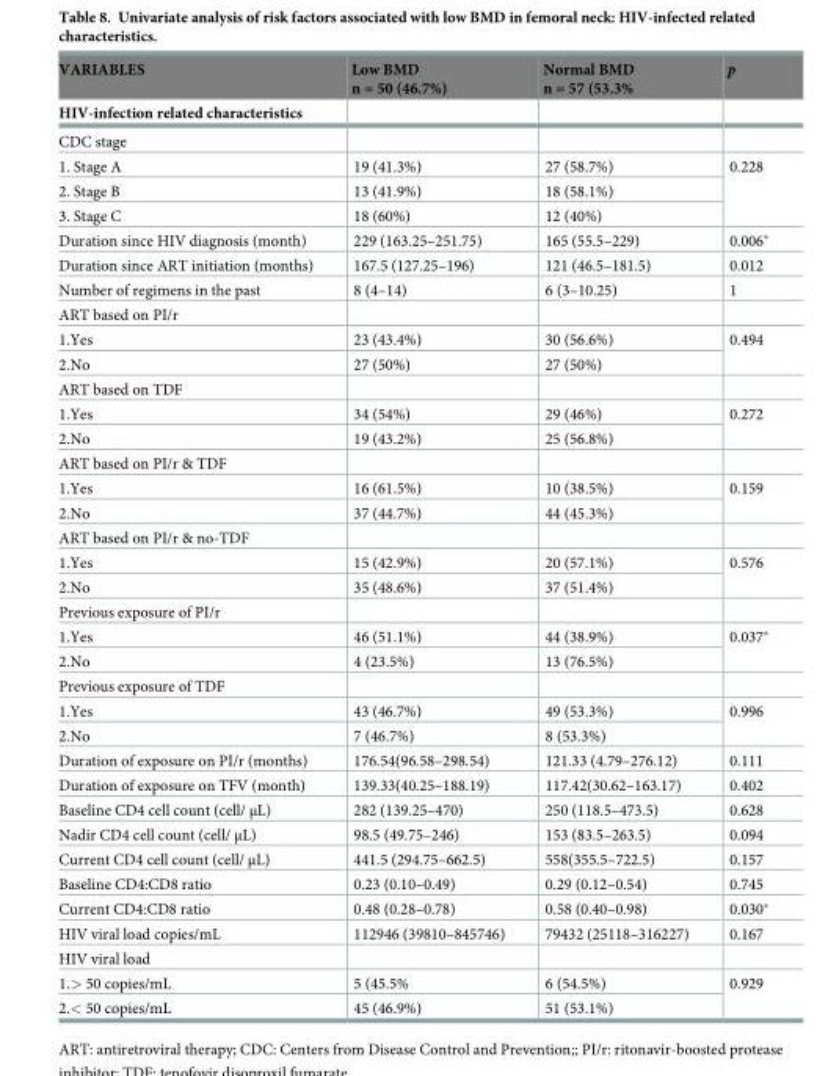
<table><thead><tr><td rowspan="2">VARIABLES HIV-infection related characteristics</td><td rowspan="2">Low BMD n = 50 (46.7%)</td><td rowspan="2">Normal BMD n = 57 (53.3%</td><td rowspan="2">p</td></tr><tr></tr></thead><tbody><tr><td colspan="4">CDC stage</td></tr><tr><td>1. Stage A</td><td>19 (41.3%)</td><td>27 (58.7%)</td><td rowspan="3">0.228</td></tr><tr><td>2. Stage B</td><td>13 (41.9%)</td><td>18 (58.1%)</td></tr><tr><td>3. Stage C</td><td>18 (60%)</td><td>12 (40%)</td></tr><tr><td>Duration since HIV diagnosis (month)</td><td>229 (163.25–251.75)</td><td>165 (55.5–229)</td><td>0.006*</td></tr><tr><td>Duration since ART initiation (months)</td><td>167.5 (127.25–196)</td><td>121 (46.5–181.5)</td><td>0.012</td></tr><tr><td>Number of regimens in the past</td><td>8 (4–14)</td><td>6 (3–10.25)</td><td>1</td></tr><tr><td colspan="4">ART based on PI/r</td></tr><tr><td>1.Yes</td><td>23 (43.4%)</td><td>30 (56.6%)</td><td rowspan="2">0.494</td></tr><tr><td>2.No</td><td>27 (50%)</td><td>27 (50%)</td></tr><tr><td colspan="4">ART based on TDF</td></tr><tr><td>1.Yes</td><td>34 (54%)</td><td>29 (46%)</td><td rowspan="2">0.272</td></tr><tr><td>2.No</td><td>19 (43.2%)</td><td>25 (56.8%)</td></tr><tr><td colspan="4">ART based on PI/r &amp; TDF</td></tr><tr><td>1.Yes</td><td>16 (61.5%)</td><td>10 (38.5%)</td><td rowspan="2">0.159</td></tr><tr><td>2.No</td><td>37 (44.7%)</td><td>44 (45.3%)</td></tr><tr><td colspan="4">ART based on PI/r &amp; no-TDF</td></tr><tr><td>1.Yes</td><td>15 (42.9%)</td><td>20 (57.1%)</td><td rowspan="2">0.576</td></tr><tr><td>2.No</td><td>35 (48.6%)</td><td>37 (51.4%)</td></tr><tr><td colspan="4">Previous exposure of PI/r</td></tr><tr><td>1.Yes</td><td>46 (51.1%)</td><td>44 (38.9%)</td><td rowspan="2">0.037*</td></tr><tr><td>2.No</td><td>4 (23.5%)</td><td>13 (76.5%)</td></tr><tr><td colspan="4">Previous exposure of TDF</td></tr><tr><td>1.Yes</td><td>43 (46.7%)</td><td>49 (53.3%)</td><td rowspan="2">0.996</td></tr><tr><td>2.No</td><td>7 (46.7%)</td><td>8 (53.3%)</td></tr><tr><td>Duration of exposure on PI/r (months)</td><td>176.54(96.58–298.54)</td><td>121.33 (4.79–276.12)</td><td>0.111</td></tr><tr><td>Duration of exposure on TFV (month)</td><td>139.33(40.25–188.19)</td><td>117.42(30.62–163.17)</td><td>0.402</td></tr><tr><td>Baseline CD4 cell count (cell/ μL)</td><td>282 (139.25–470)</td><td>250 (118.5–473.5)</td><td>0.628</td></tr><tr><td>Nadir CD4 cell count (cell/ μL)</td><td>98.5 (49.75–246)</td><td>153 (83.5–263.5)</td><td>0.094</td></tr><tr><td>Current CD4 cell count (cell/ μL)</td><td>441.5 (294.75–662.5)</td><td>558(355.5–722.5)</td><td>0.157</td></tr><tr><td>Baseline CD4:CD8 ratio</td><td>0.23 (0.10–0.49)</td><td>0.29 (0.12–0.54)</td><td>0.745</td></tr><tr><td>Current CD4:CD8 ratio</td><td>0.48 (0.28–0.78)</td><td>0.58 (0.40–0.98)</td><td>0.030*</td></tr><tr><td>HIV viral load copies/mL</td><td>112946 (39810–845746)</td><td>79432 (25118–316227)</td><td>0.167</td></tr><tr><td colspan="4">HIV viral load</td></tr><tr><td>1.&gt; 50 copies/mL</td><td>5 (45.5%</td><td>6 (54.5%)</td><td rowspan="2">0.929</td></tr><tr><td>2.&lt; 50 copies/mL</td><td>45 (46.9%)</td><td>51 (53.1%)</td></tr></tbody></table>